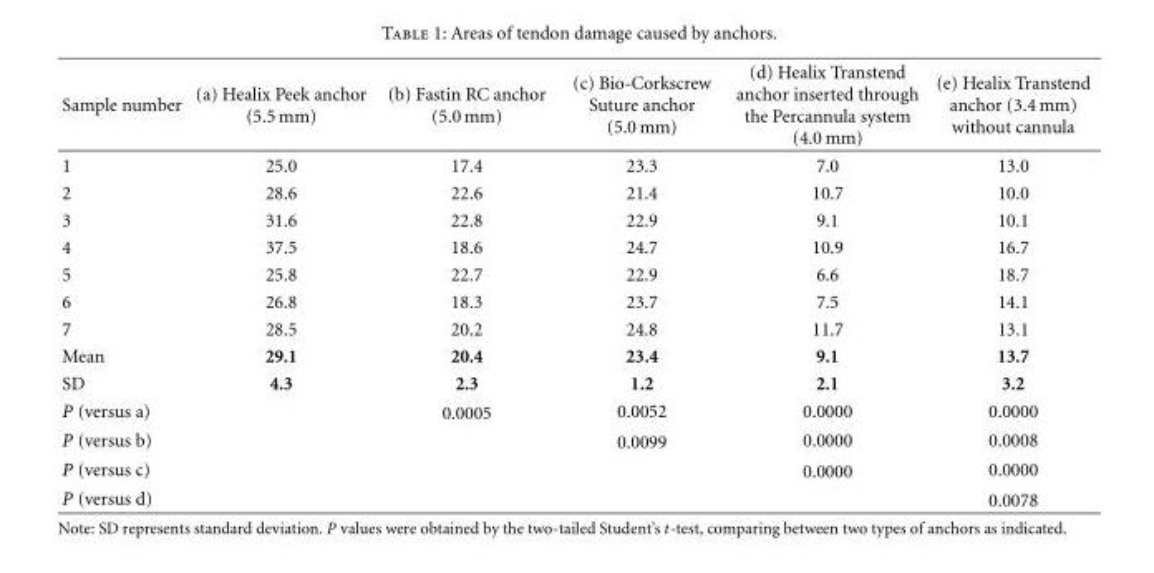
<table><thead><tr><td>Sample number</td><td>(a) Healix Peek anchor (5.5 mm)</td><td>(b) Fastin RC anchor (5.0 mm)</td><td>(c) Bio-Corkscrew Suture anchor (5.0 mm)</td><td>(d) Healix Transtend anchor inserted through the Percannula system (4.0 mm)</td><td>(e) Healix Transtend anchor (3.4 mm) without cannula</td></tr></thead><tbody><tr><td>1</td><td>25.0</td><td>17.4</td><td>23.3</td><td>7.0</td><td>13.0</td></tr><tr><td>2</td><td>28.6</td><td>22.6</td><td>21.4</td><td>10.7</td><td>10.0</td></tr><tr><td>3</td><td>31.6</td><td>22.8</td><td>22.9</td><td>9.1</td><td>10.1</td></tr><tr><td>4</td><td>37.5</td><td>18.6</td><td>24.7</td><td>10.9</td><td>16.7</td></tr><tr><td>5</td><td>25.8</td><td>22.7</td><td>22.9</td><td>6.6</td><td>18.7</td></tr><tr><td>6</td><td>26.8</td><td>18.3</td><td>23.7</td><td>7.5</td><td>14.1</td></tr><tr><td>7</td><td>28.5</td><td>20.2</td><td>24.8</td><td>11.7</td><td>13.1</td></tr><tr><td>Mean</td><td>29.1</td><td>20.4</td><td>23.4</td><td>9.1</td><td>13.7</td></tr><tr><td>SD</td><td>4.3</td><td>2.3</td><td>1.2</td><td>2.1</td><td>3.2</td></tr><tr><td>P (versus a)</td><td></td><td>0.0005</td><td>0.0052</td><td>0.0000</td><td>0.0000</td></tr><tr><td>P (versus b)</td><td></td><td></td><td>0.0099</td><td>0.0000</td><td>0.0008</td></tr><tr><td>P (versus c)</td><td></td><td></td><td></td><td>0.0000</td><td>0.0000</td></tr><tr><td>P (versus d)</td><td></td><td></td><td></td><td></td><td>0.0078</td></tr></tbody></table>